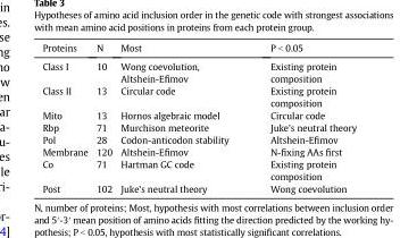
<table><thead><tr><td>Proteins</td><td>N</td><td>Most</td><td>P &lt; 0.05</td></tr></thead><tbody><tr><td>Class I</td><td>10</td><td>Wong coevolution, Altshein-Efimov</td><td>Existing protein composition</td></tr><tr><td>Class II</td><td>13</td><td>Circular code</td><td>Existing protein composition</td></tr><tr><td>Mito</td><td>13</td><td>Hornos algebraic model</td><td>Circular code</td></tr><tr><td>Rbp</td><td>71</td><td>Murchison meteorite</td><td>Juke&#x27;s neutral theory</td></tr><tr><td>Pol</td><td>28</td><td>Codon-anticodon stability</td><td>Altshein-Efimov</td></tr><tr><td>Membrane</td><td>120</td><td>Altshein-Efimov</td><td>N-fixing AAs first</td></tr><tr><td>Co</td><td>71</td><td>Hartman GC code</td><td>Existing protein composition</td></tr><tr><td>Post</td><td>102</td><td>Juke&#x27;s neutral theory</td><td>Wong coevolution</td></tr></tbody></table>